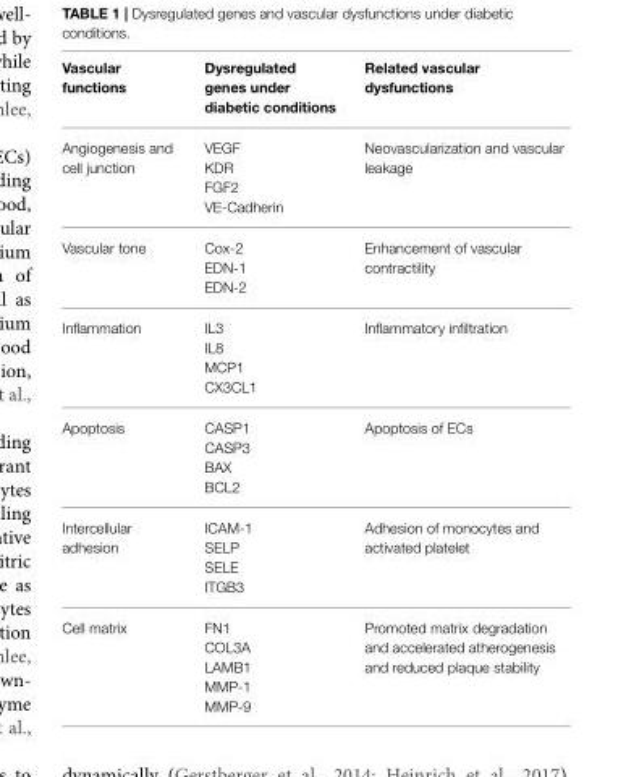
<table><thead><tr><td>Vascular functions</td><td>Dysregulated genes under diabetic conditions</td><td>Related vascular dysfunctions</td></tr></thead><tbody><tr><td>Angiogenesis and cell junction</td><td>VEGF KDR FGF2 VE-Cadherin</td><td>Neovascularization and vascular leakage</td></tr><tr><td>Vascular tone</td><td>Cox-2 EDN-1 EDN-2</td><td>Enhancement of vascular contractility</td></tr><tr><td>Inflammation</td><td>IL3 IL8 MCP1 CX3CL1</td><td>Inflammatory infiltration</td></tr><tr><td>Apoptosis</td><td>CASP1 CASP3 BAX BCL2</td><td>Apoptosis of ECs</td></tr><tr><td>Intercellular adhesion</td><td>ICAM-1 SELP SELE ITGB3</td><td>Adhesion of monocytes and activated platelet</td></tr><tr><td>Cell matrix</td><td>FN1 COL3A LAMB1 MMP-1 MMP-9</td><td>Promoted matrix degradation and accelerated atherogenesis and reduced plaque stability</td></tr></tbody></table>